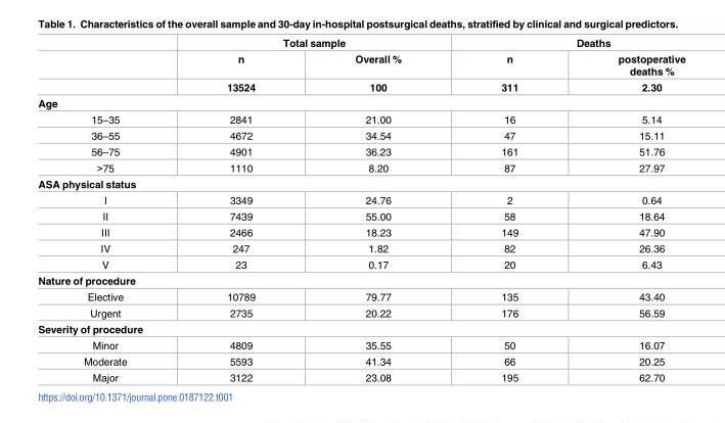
<table><thead><tr><td rowspan="2"></td><td colspan="2">Total sample</td><td colspan="2">Deaths</td></tr><tr><td>n</td><td>Overall %</td><td>n</td><td>postoperative deaths %</td></tr></thead><tbody><tr><td></td><td>13524</td><td>100</td><td>311</td><td>2.30</td></tr><tr><td colspan="5">Age</td></tr><tr><td>15–35</td><td>2841</td><td>21.00</td><td>16</td><td>5.14</td></tr><tr><td>36–55</td><td>4672</td><td>34.54</td><td>47</td><td>15.11</td></tr><tr><td>56–75</td><td>4901</td><td>36.23</td><td>161</td><td>51.76</td></tr><tr><td>&gt;75</td><td>1110</td><td>8.20</td><td>87</td><td>27.97</td></tr><tr><td colspan="5">ASA physical status</td></tr><tr><td>I</td><td>3349</td><td>24.76</td><td>2</td><td>0.64</td></tr><tr><td>II</td><td>7439</td><td>55.00</td><td>58</td><td>18.64</td></tr><tr><td>III</td><td>2466</td><td>18.23</td><td>149</td><td>47.90</td></tr><tr><td>IV</td><td>247</td><td>1.82</td><td>82</td><td>26.36</td></tr><tr><td>V</td><td>23</td><td>0.17</td><td>20</td><td>6.43</td></tr><tr><td colspan="5">Nature of procedure</td></tr><tr><td>Elective</td><td>10789</td><td>79.77</td><td>135</td><td>43.40</td></tr><tr><td>Urgent</td><td>2735</td><td>20.22</td><td>176</td><td>56.59</td></tr><tr><td colspan="5">Severity of procedure</td></tr><tr><td>Minor</td><td>4809</td><td>35.55</td><td>50</td><td>16.07</td></tr><tr><td>Moderate</td><td>5593</td><td>41.34</td><td>66</td><td>20.25</td></tr><tr><td>Major</td><td>3122</td><td>23.08</td><td>195</td><td>62.70</td></tr></tbody></table>